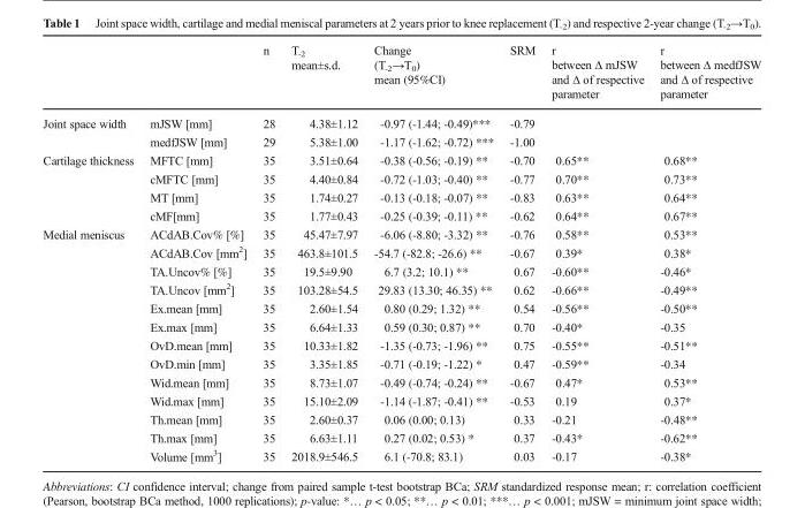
<table><thead><tr><td></td><td></td><td>n</td><td>T<sub>-2</sub> mean±s.d.</td><td>Change (T<sub>-2</sub>→T<sub>0</sub>) mean (95%CI)</td><td>SRM</td><td>r between Δ mJSW and Δ of respective parameter</td><td>r between Δ medfJSW and Δ of respective parameter</td></tr></thead><tbody><tr><td rowspan="2">Joint space width</td><td>mJSW [mm]</td><td>28</td><td>4.38±1.12</td><td>-0.97 (-1.44; -0.49)***</td><td>-0.79</td><td></td><td></td></tr><tr><td>medfJSW [mm]</td><td>29</td><td>5.38±1.00</td><td>-1.17 (-1.62; -0.72) ***</td><td>-1.00</td><td></td><td></td></tr><tr><td rowspan="4">Cartilage thickness</td><td>MFTC [mm]</td><td>35</td><td>3.51±0.64</td><td>-0.38 (-0.56; -0.19) **</td><td>-0.70</td><td>0.65**</td><td>0.68**</td></tr><tr><td>cMFTC [mm]</td><td>35</td><td>4.40±0.84</td><td>-0.72 (-1.03; -0.40) **</td><td>-0.77</td><td>0.70**</td><td>0.73**</td></tr><tr><td>MT [mm]</td><td>35</td><td>1.74±0.27</td><td>-0.13 (-0.18; -0.07) **</td><td>-0.83</td><td>0.63**</td><td>0.64**</td></tr><tr><td>cMF[mm]</td><td>35</td><td>1.77±0.43</td><td>-0.25 (-0.39; -0.11) **</td><td>-0.62</td><td>0.64**</td><td>0.67**</td></tr><tr><td rowspan="13">Medial meniscus</td><td>ACdAB.Cov% [%]</td><td>35</td><td>45.47±7.97</td><td>-6.06 (-8.80; -3.32) **</td><td>-0.76</td><td>0.58**</td><td>0.53**</td></tr><tr><td>ACdAB.Cov [mm<sup>2</sup>]</td><td>35</td><td>463.8±101.5</td><td>-54.7 (-82.8; -26.6) **</td><td>-0.67</td><td>0.39*</td><td>0.38*</td></tr><tr><td>TA.Uncov% [%]</td><td>35</td><td>19.5±9.90</td><td>6.7 (3.2; 10.1) **</td><td>0.67</td><td>-0.60**</td><td>-0.46*</td></tr><tr><td>TA.Uncov [mm<sup>2</sup>]</td><td>35</td><td>103.28±54.5</td><td>29.83 (13.30; 46.35) **</td><td>0.62</td><td>-0.66**</td><td>-0.49**</td></tr><tr><td>Ex.mean [mm]</td><td>35</td><td>2.60±1.54</td><td>0.80 (0.29; 1.32) **</td><td>0.54</td><td>-0.56**</td><td>-0.50**</td></tr><tr><td>Ex.max [mm]</td><td>35</td><td>6.64±1.33</td><td>0.59 (0.30; 0.87) **</td><td>0.70</td><td>-0.40*</td><td>-0.35</td></tr><tr><td>OvD.mean [mm]</td><td>35</td><td>10.33±1.82</td><td>-1.35 (-0.73; -1.96) **</td><td>0.75</td><td>-0.55**</td><td>-0.51**</td></tr><tr><td>OvD.min [mm]</td><td>35</td><td>3.35±1.85</td><td>-0.71 (-0.19; -1.22) *</td><td>0.47</td><td>-0.59**</td><td>-0.34</td></tr><tr><td>Wid.mean [mm]</td><td>35</td><td>8.73±1.07</td><td>-0.49 (-0.74; -0.24) **</td><td>-0.67</td><td>0.47*</td><td>0.53**</td></tr><tr><td>Wid.max [mm]</td><td>35</td><td>15.10±2.09</td><td>-1.14 (-1.87; -0.41) **</td><td>-0.53</td><td>0.19</td><td>0.37*</td></tr><tr><td>Th.mean [mm]</td><td>35</td><td>2.60±0.37</td><td>0.06 (0.00; 0.13)</td><td>0.33</td><td>-0.21</td><td>-0.48**</td></tr><tr><td>Th.max [mm]</td><td>35</td><td>6.63±1.11</td><td>0.27 (0.02; 0.53) *</td><td>0.37</td><td>-0.43*</td><td>-0.62**</td></tr><tr><td>Volume [mm<sup>3</sup>]</td><td>35</td><td>2018.9±546.5</td><td>6.1 (-70.8; 83.1)</td><td>0.03</td><td>-0.17</td><td>-0.38*</td></tr></tbody></table>